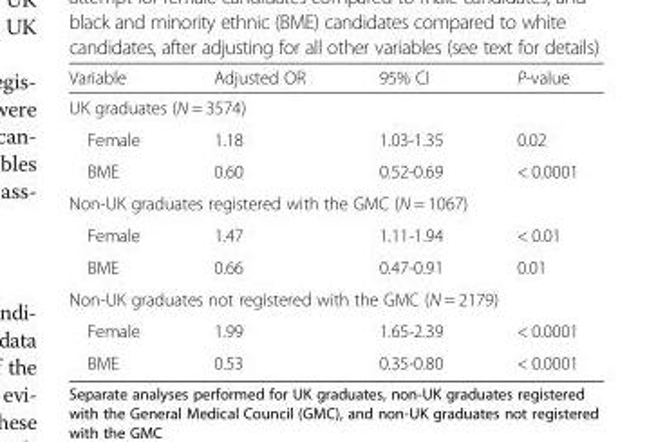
<table><thead><tr><td>Variable</td><td>Adjusted OR</td><td>95% CI</td><td>P-value</td></tr></thead><tbody><tr><td colspan="4">UK graduates (N = 3574)</td></tr><tr><td>Female</td><td>1.18</td><td>1.03-1.35</td><td>0.02</td></tr><tr><td>BME</td><td>0.60</td><td>0.52-0.69</td><td>&lt; 0.0001</td></tr><tr><td colspan="4">Non-UK graduates registered with the GMC (N = 1067)</td></tr><tr><td>Female</td><td>1.47</td><td>1.11-1.94</td><td>&lt; 0.01</td></tr><tr><td>BME</td><td>0.66</td><td>0.47-0.91</td><td>0.01</td></tr><tr><td colspan="4">Non-UK graduates not registered with the GMC (N = 2179)</td></tr><tr><td>Female</td><td>1.99</td><td>1.65-2.39</td><td>&lt; 0.0001</td></tr><tr><td>BME</td><td>0.53</td><td>0.35-0.80</td><td>&lt; 0.0001</td></tr></tbody></table>